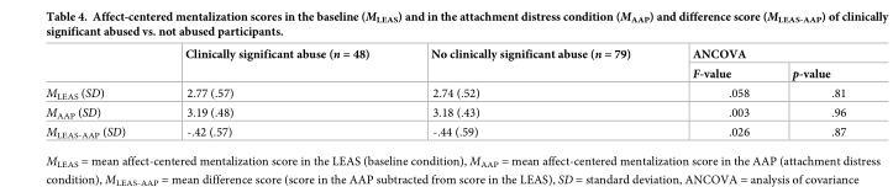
<table><thead><tr><td rowspan="2"></td><td rowspan="2">Clinically significant abuse (n = 48)</td><td rowspan="2">No clinically significant abuse (n = 79)</td><td colspan="2">ANCOVA</td></tr><tr><td>F-value</td><td>p-value</td></tr></thead><tbody><tr><td>M<sub>LEAS</sub> (SD)</td><td>2.77 (.57)</td><td>2.74 (.52)</td><td>.058</td><td>.81</td></tr><tr><td>M<sub>AAP</sub> (SD)</td><td>3.19 (.48)</td><td>3.18 (.43)</td><td>.003</td><td>.96</td></tr><tr><td>M<sub>LEAS-AAP</sub> (SD)</td><td>-.42 (.57)</td><td>-.44 (.59)</td><td>.026</td><td>.87</td></tr></tbody></table>